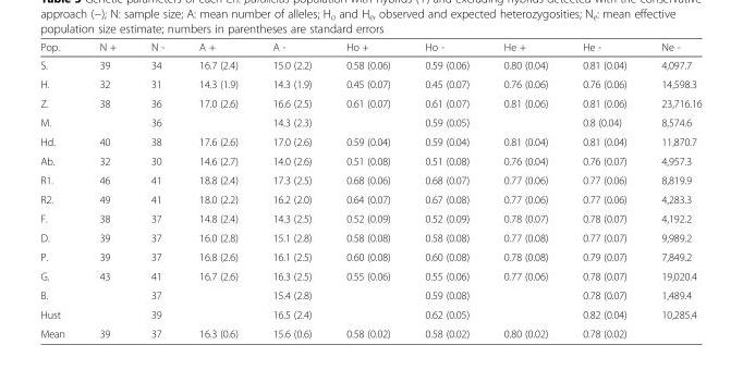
<table><thead><tr><td>Pop.</td><td>N +</td><td>N -</td><td>A +</td><td>A -</td><td>Ho +</td><td>Ho -</td><td>He +</td><td>He -</td><td>Ne -</td></tr></thead><tbody><tr><td>S.</td><td>39</td><td>34</td><td>16.7 (2.4)</td><td>15.0 (2.2)</td><td>0.58 (0.06)</td><td>0.59 (0.06)</td><td>0.80 (0.04)</td><td>0.81 (0.04)</td><td>4,097.7</td></tr><tr><td>H.</td><td>32</td><td>31</td><td>14.3 (1.9)</td><td>14.3 (1.9)</td><td>0.45 (0.07)</td><td>0.45 (0.07)</td><td>0.76 (0.06)</td><td>0.76 (0.06)</td><td>14,598.3</td></tr><tr><td>Z.</td><td>38</td><td>36</td><td>17.0 (2.6)</td><td>16.6 (2.5)</td><td>0.61 (0.07)</td><td>0.61 (0.07)</td><td>0.81 (0.06)</td><td>0.81 (0.06)</td><td>23,716.16</td></tr><tr><td>M.</td><td></td><td>36</td><td></td><td>14.3 (2.3)</td><td></td><td>0.59 (0.05)</td><td></td><td>0.8 (0.04)</td><td>8,574.6</td></tr><tr><td>Hd.</td><td>40</td><td>38</td><td>17.6 (2.6)</td><td>17.0 (2.6)</td><td>0.59 (0.04)</td><td>0.59 (0.04)</td><td>0.81 (0.04)</td><td>0.81 (0.04)</td><td>11,870.7</td></tr><tr><td>Ab.</td><td>32</td><td>30</td><td>14.6 (2.7)</td><td>14.0 (2.6)</td><td>0.51 (0.08)</td><td>0.51 (0.08)</td><td>0.76 (0.04)</td><td>0.76 (0.07)</td><td>4,957.3</td></tr><tr><td>R1.</td><td>46</td><td>41</td><td>18.8 (2.4)</td><td>17.3 (2.5)</td><td>0.68 (0.06)</td><td>0.68 (0.07)</td><td>0.77 (0.06)</td><td>0.77 (0.06)</td><td>8,819.9</td></tr><tr><td>R2.</td><td>49</td><td>41</td><td>18.0 (2.2)</td><td>16.2 (2.0)</td><td>0.64 (0.07)</td><td>0.67 (0.08)</td><td>0.77 (0.06)</td><td>0.77 (0.06)</td><td>4,283.3</td></tr><tr><td>F.</td><td>38</td><td>37</td><td>14.8 (2.4)</td><td>14.3 (2.5)</td><td>0.52 (0.09)</td><td>0.52 (0.09)</td><td>0.78 (0.07)</td><td>0.78 (0.07)</td><td>4,192.2</td></tr><tr><td>D.</td><td>39</td><td>37</td><td>16.0 (2.8)</td><td>15.1 (2.8)</td><td>0.58 (0.08)</td><td>0.58 (0.08)</td><td>0.77 (0.08)</td><td>0.77 (0.07)</td><td>9,989.2</td></tr><tr><td>P.</td><td>39</td><td>37</td><td>16.8 (2.6)</td><td>16.1 (2.5)</td><td>0.60 (0.08)</td><td>0.60 (0.08)</td><td>0.78 (0.08)</td><td>0.79 (0.07)</td><td>7,849.2</td></tr><tr><td>G.</td><td>43</td><td>41</td><td>16.7 (2.6)</td><td>16.3 (2.5)</td><td>0.55 (0.06)</td><td>0.55 (0.06)</td><td>0.77 (0.06)</td><td>0.78 (0.07)</td><td>19,020.4</td></tr><tr><td>B.</td><td></td><td>37</td><td></td><td>15.4 (2.8)</td><td></td><td>0.59 (0.08)</td><td></td><td>0.78 (0.07)</td><td>1,489.4</td></tr><tr><td>Hust</td><td></td><td>39</td><td></td><td>16.5 (2.4)</td><td></td><td>0.62 (0.05)</td><td></td><td>0.82 (0.04)</td><td>10,285.4</td></tr><tr><td>Mean</td><td>39</td><td>37</td><td>16.3 (0.6)</td><td>15.6 (0.6)</td><td>0.58 (0.02)</td><td>0.58 (0.02)</td><td>0.80 (0.02)</td><td>0.78 (0.02)</td><td></td></tr></tbody></table>